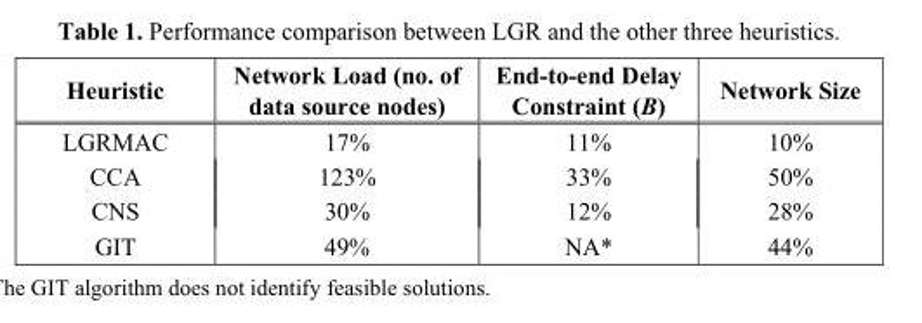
<table><thead><tr><td>Heuristic</td><td>Network Load (no. of data source nodes)</td><td>End-to-end Delay Constraint (B)</td><td>Network Size</td></tr></thead><tbody><tr><td>LGRMAC</td><td>17%</td><td>11%</td><td>10%</td></tr><tr><td>CCA</td><td>123%</td><td>33%</td><td>50%</td></tr><tr><td>CNS</td><td>30%</td><td>12%</td><td>28%</td></tr><tr><td>GIT</td><td>49%</td><td>NA*</td><td>44%</td></tr></tbody></table>